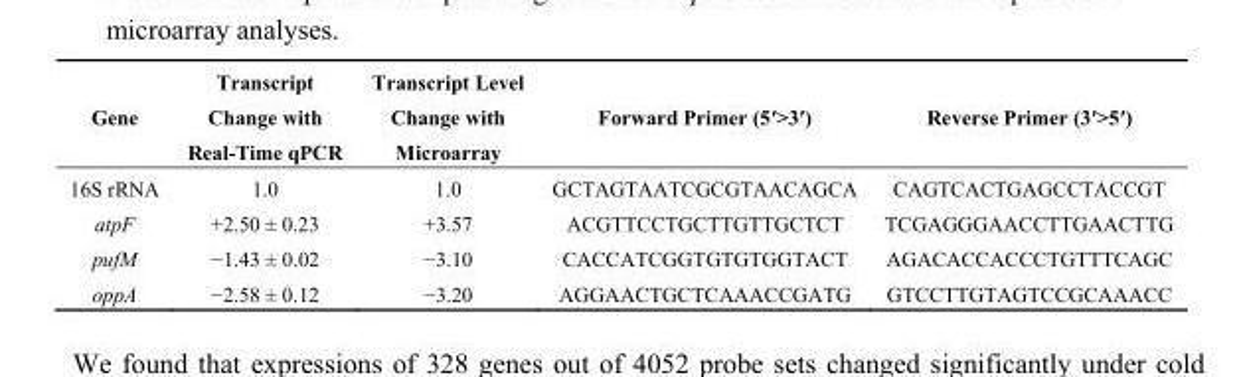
<table><thead><tr><td>Gene</td><td>Transcript Change with Real-Time qPCR</td><td>Transcript Level Change with Microarray</td><td>Forward Primer (5′&gt;3′)</td><td>Reverse Primer (3′&gt;5′)</td></tr></thead><tbody><tr><td>16S rRNA</td><td>1.0</td><td>1.0</td><td>GCTAGTAATCGCGTAACAGCA</td><td>CAGTCACTGAGCCTACCGT</td></tr><tr><td>atpF</td><td>+2.50 ± 0.23</td><td>+3.57</td><td>ACGTTCCTGCTTGTTGCTCT</td><td>TCGAGGGAACCTTGAACTTG</td></tr><tr><td>pufM</td><td>−1.43 ± 0.02</td><td>−3.10</td><td>CACCATCGGTGTGTGGTACT</td><td>AGACACCACCCTGTTTCAGC</td></tr><tr><td>oppA</td><td>−2.58 ± 0.12</td><td>−3.20</td><td>AGGAACTGCTCAAACCGATG</td><td>GTCCTTGTAGTCCGCAAACC</td></tr></tbody></table>